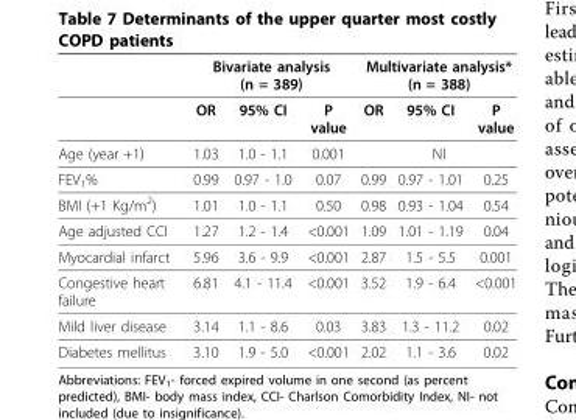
<table><thead><tr><td rowspan="2"></td><td colspan="3">Bivariate analysis (n = 389)</td><td colspan="3">Multivariate analysis* (n = 388)</td></tr><tr><td>OR</td><td>95% CI</td><td>P value</td><td>OR</td><td>95% CI</td><td>P value</td></tr></thead><tbody><tr><td>Age (year +1)</td><td>1.03</td><td>1.0 - 1.1</td><td>0.001</td><td colspan="3">NI</td></tr><tr><td>FEV<sub>1</sub>%</td><td>0.99</td><td>0.97 - 1.0</td><td>0.07</td><td>0.99</td><td>0.97 - 1.01</td><td>0.25</td></tr><tr><td>BMI (+1 Kg/m<sup>2</sup>)</td><td>1.01</td><td>1.0 - 1.1</td><td>0.50</td><td>0.98</td><td>0.93 - 1.04</td><td>0.54</td></tr><tr><td>Age adjusted CCI</td><td>1.27</td><td>1.2 - 1.4</td><td>&lt;0.001</td><td>1.09</td><td>1.01 - 1.19</td><td>0.04</td></tr><tr><td>Myocardial infarct</td><td>5.96</td><td>3.6 - 9.9</td><td>&lt;0.001</td><td>2.87</td><td>1.5 - 5.5</td><td>0.001</td></tr><tr><td>Congestive heart failure</td><td>6.81</td><td>4.1 - 11.4</td><td>&lt;0.001</td><td>3.52</td><td>1.9 - 6.4</td><td>&lt;0.001</td></tr><tr><td>Mild liver disease</td><td>3.14</td><td>1.1 - 8.6</td><td>0.03</td><td>3.83</td><td>1.3 - 11.2</td><td>0.02</td></tr><tr><td>Diabetes mellitus</td><td>3.10</td><td>1.9 - 5.0</td><td>&lt;0.001</td><td>2.02</td><td>1.1 - 3.6</td><td>0.02</td></tr></tbody></table>